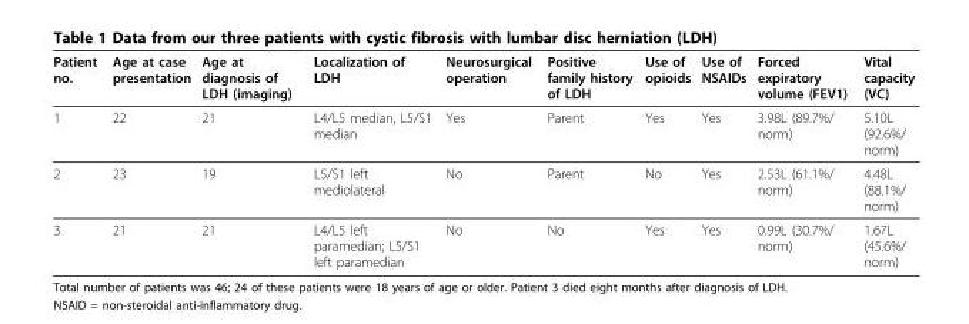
<table><thead><tr><td>Patient no.</td><td>Age at case presentation</td><td>Age at diagnosis of LDH (imaging)</td><td>Localization of LDH</td><td>Neurosurgical operation</td><td>Positive family history of LDH</td><td>Use of opioids</td><td>Use of NSAIDs</td><td>Forced expiratory volume (FEV1)</td><td>Vital capacity (VC)</td></tr></thead><tbody><tr><td>1</td><td>22</td><td>21</td><td>L4/L5 median, L5/S1 median</td><td>Yes</td><td>Parent</td><td>Yes</td><td>Yes</td><td>3.98L (89.7%/ norm)</td><td>5.10L (92.6%/ norm)</td></tr><tr><td>2</td><td>23</td><td>19</td><td>L5/S1 left mediolateral</td><td>No</td><td>Parent</td><td>No</td><td>Yes</td><td>2.53L (61.1%/ norm)</td><td>4.48L (88.1%/ norm)</td></tr><tr><td>3</td><td>21</td><td>21</td><td>L4/L5 left paramedian; L5/S1 left paramedian</td><td>No</td><td>No</td><td>Yes</td><td>Yes</td><td>0.99L (30.7%/ norm)</td><td>1.67L (45.6%/ norm)</td></tr></tbody></table>